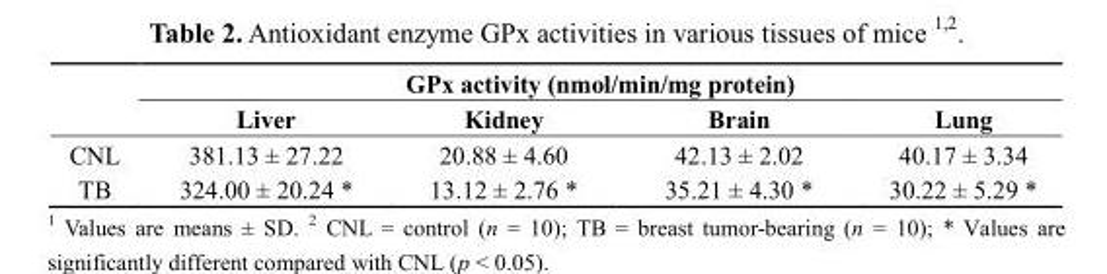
<table><thead><tr><td rowspan="2"></td><td colspan="4">GPx activity (nmol/min/mg protein)</td></tr><tr><td>Liver</td><td>Kidney</td><td>Brain</td><td>Lung</td></tr></thead><tbody><tr><td>CNL</td><td>381.13 ± 27.22</td><td>20.88 ± 4.60</td><td>42.13 ± 2.02</td><td>40.17 ± 3.34</td></tr><tr><td>TB</td><td>324.00 ± 20.24 *</td><td>13.12 ± 2.76 *</td><td>35.21 ± 4.30 *</td><td>30.22 ± 5.29 *</td></tr></tbody></table>